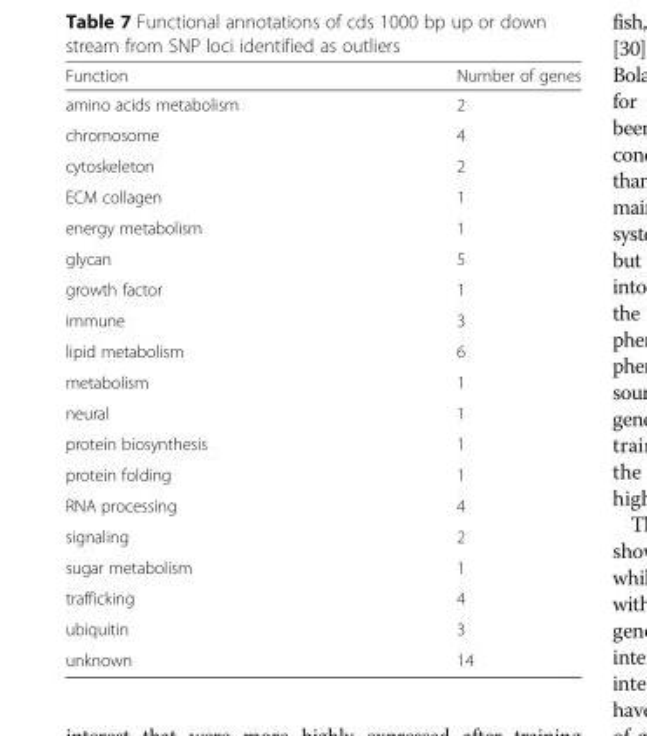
<table><thead><tr><td>Function</td><td>Number of genes</td></tr></thead><tbody><tr><td>amino acids metabolism</td><td>2</td></tr><tr><td>chromosome</td><td>4</td></tr><tr><td>cytoskeleton</td><td>2</td></tr><tr><td>ECM collagen</td><td>1</td></tr><tr><td>energy metabolism</td><td>1</td></tr><tr><td>glycan</td><td>5</td></tr><tr><td>growth factor</td><td>1</td></tr><tr><td>immune</td><td>3</td></tr><tr><td>lipid metabolism</td><td>6</td></tr><tr><td>metabolism</td><td>1</td></tr><tr><td>neural</td><td>1</td></tr><tr><td>protein biosynthesis</td><td>1</td></tr><tr><td>protein folding</td><td>1</td></tr><tr><td>RNA processing</td><td>4</td></tr><tr><td>signaling</td><td>2</td></tr><tr><td>sugar metabolism</td><td>1</td></tr><tr><td>trafficking</td><td>4</td></tr><tr><td>ubiquitin</td><td>3</td></tr><tr><td>unknown</td><td>14</td></tr></tbody></table>